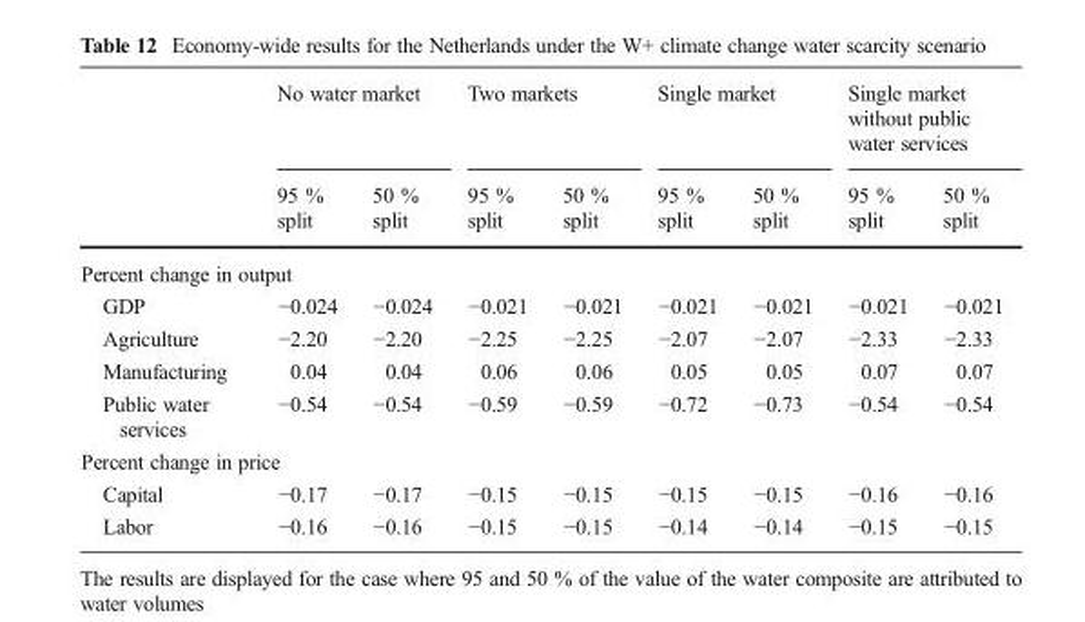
<table><thead><tr><td rowspan="2"></td><td colspan="2">No water market</td><td colspan="2">Two markets</td><td colspan="2">Single market</td><td colspan="2">Single market without public water services</td></tr><tr><td>95 % split</td><td>50 % split</td><td>95 % split</td><td>50 % split</td><td>95 % split</td><td>50 % split</td><td>95 % split</td><td>50 % split</td></tr></thead><tbody><tr><td colspan="9">Percent change in output</td></tr><tr><td>GDP</td><td>−0.024</td><td>−0.024</td><td>−0.021</td><td>−0.021</td><td>−0.021</td><td>−0.021</td><td>−0.021</td><td>−0.021</td></tr><tr><td>Agriculture</td><td>−2.20</td><td>−2.20</td><td>−2.25</td><td>−2.25</td><td>−2.07</td><td>−2.07</td><td>−2.33</td><td>−2.33</td></tr><tr><td>Manufacturing</td><td>0.04</td><td>0.04</td><td>0.06</td><td>0.06</td><td>0.05</td><td>0.05</td><td>0.07</td><td>0.07</td></tr><tr><td>Public water services</td><td>−0.54</td><td>−0.54</td><td>−0.59</td><td>−0.59</td><td>−0.72</td><td>−0.73</td><td>−0.54</td><td>−0.54</td></tr><tr><td colspan="9">Percent change in price</td></tr><tr><td>Capital</td><td>−0.17</td><td>−0.17</td><td>−0.15</td><td>−0.15</td><td>−0.15</td><td>−0.15</td><td>−0.16</td><td>−0.16</td></tr><tr><td>Labor</td><td>−0.16</td><td>−0.16</td><td>−0.15</td><td>−0.15</td><td>−0.14</td><td>−0.14</td><td>−0.15</td><td>−0.15</td></tr></tbody></table>